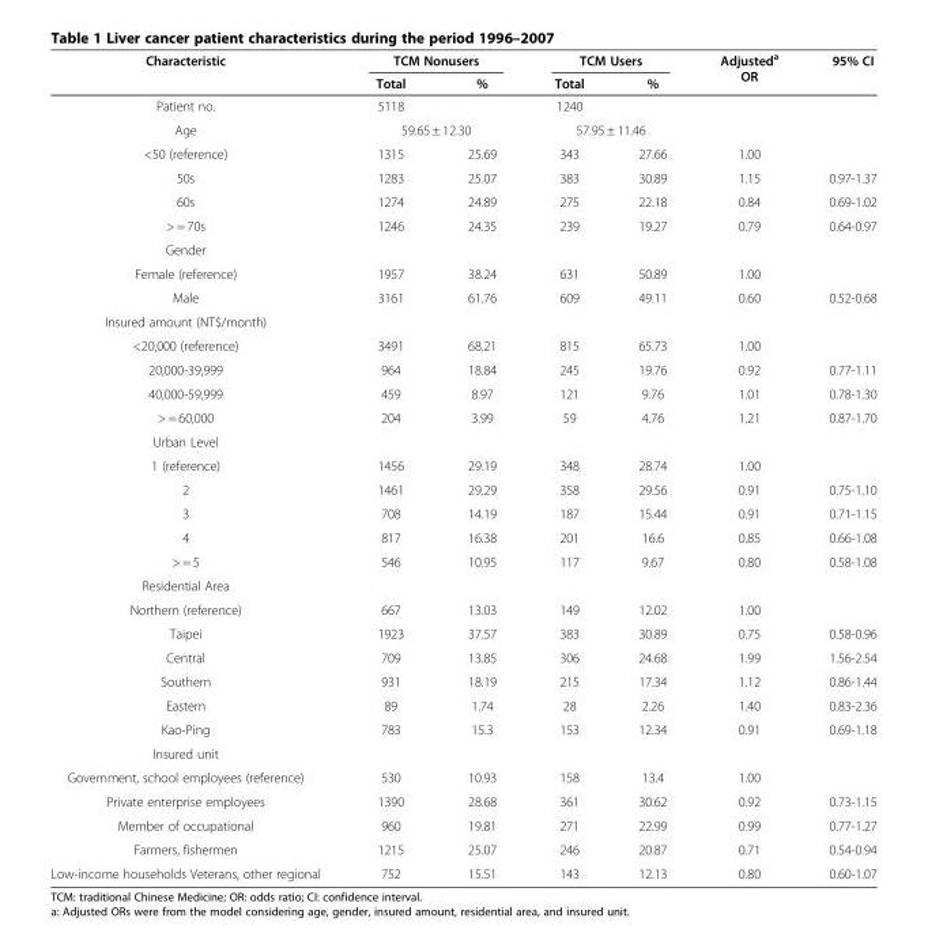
<table><thead><tr><td rowspan="2">Characteristic</td><td colspan="2">TCM Nonusers</td><td colspan="2">TCM Users</td><td rowspan="2">Adjusted<sup>a</sup> OR</td><td rowspan="2">95% CI</td></tr><tr><td>Total</td><td>%</td><td>Total</td><td>%</td></tr></thead><tbody><tr><td>Patient no.</td><td>5118</td><td></td><td>1240</td><td></td><td></td><td></td></tr><tr><td>Age</td><td colspan="2">59.65 ± 12.30</td><td colspan="2">57.95 ± 11.46</td><td></td><td></td></tr><tr><td>&lt;50 (reference)</td><td>1315</td><td>25.69</td><td>343</td><td>27.66</td><td>1.00</td><td></td></tr><tr><td>50s</td><td>1283</td><td>25.07</td><td>383</td><td>30.89</td><td>1.15</td><td>0.97-1.37</td></tr><tr><td>60s</td><td>1274</td><td>24.89</td><td>275</td><td>22.18</td><td>0.84</td><td>0.69-1.02</td></tr><tr><td>&gt; = 70s</td><td>1246</td><td>24.35</td><td>239</td><td>19.27</td><td>0.79</td><td>0.64-0.97</td></tr><tr><td colspan="7">Gender</td></tr><tr><td>Female (reference)</td><td>1957</td><td>38.24</td><td>631</td><td>50.89</td><td>1.00</td><td></td></tr><tr><td>Male</td><td>3161</td><td>61.76</td><td>609</td><td>49.11</td><td>0.60</td><td>0.52-0.68</td></tr><tr><td colspan="7">Insured amount (NT$/month)</td></tr><tr><td>&lt;20,000 (reference)</td><td>3491</td><td>68.21</td><td>815</td><td>65.73</td><td>1.00</td><td></td></tr><tr><td>20,000-39,999</td><td>964</td><td>18.84</td><td>245</td><td>19.76</td><td>0.92</td><td>0.77-1.11</td></tr><tr><td>40,000-59,999</td><td>459</td><td>8.97</td><td>121</td><td>9.76</td><td>1.01</td><td>0.78-1.30</td></tr><tr><td>&gt; = 60,000</td><td>204</td><td>3.99</td><td>59</td><td>4.76</td><td>1.21</td><td>0.87-1.70</td></tr><tr><td colspan="7">Urban Level</td></tr><tr><td>1 (reference)</td><td>1456</td><td>29.19</td><td>348</td><td>28.74</td><td>1.00</td><td></td></tr><tr><td>2</td><td>1461</td><td>29.29</td><td>358</td><td>29.56</td><td>0.91</td><td>0.75-1.10</td></tr><tr><td>3</td><td>708</td><td>14.19</td><td>187</td><td>15.44</td><td>0.91</td><td>0.71-1.15</td></tr><tr><td>4</td><td>817</td><td>16.38</td><td>201</td><td>16.6</td><td>0.85</td><td>0.66-1.08</td></tr><tr><td>&gt; = 5</td><td>546</td><td>10.95</td><td>117</td><td>9.67</td><td>0.80</td><td>0.58-1.08</td></tr><tr><td colspan="7">Residential Area</td></tr><tr><td>Northern (reference)</td><td>667</td><td>13.03</td><td>149</td><td>12.02</td><td>1.00</td><td></td></tr><tr><td>Taipei</td><td>1923</td><td>37.57</td><td>383</td><td>30.89</td><td>0.75</td><td>0.58-0.96</td></tr><tr><td>Central</td><td>709</td><td>13.85</td><td>306</td><td>24.68</td><td>1.99</td><td>1.56-2.54</td></tr><tr><td>Southern</td><td>931</td><td>18.19</td><td>215</td><td>17.34</td><td>1.12</td><td>0.86-1.44</td></tr><tr><td>Eastern</td><td>89</td><td>1.74</td><td>28</td><td>2.26</td><td>1.40</td><td>0.83-2.36</td></tr><tr><td>Kao-Ping</td><td>783</td><td>15.3</td><td>153</td><td>12.34</td><td>0.91</td><td>0.69-1.18</td></tr><tr><td colspan="7">Insured unit</td></tr><tr><td>Government, school employees (reference)</td><td>530</td><td>10.93</td><td>158</td><td>13.4</td><td>1.00</td><td></td></tr><tr><td>Private enterprise employees</td><td>1390</td><td>28.68</td><td>361</td><td>30.62</td><td>0.92</td><td>0.73-1.15</td></tr><tr><td>Member of occupational</td><td>960</td><td>19.81</td><td>271</td><td>22.99</td><td>0.99</td><td>0.77-1.27</td></tr><tr><td>Farmers, fishermen</td><td>1215</td><td>25.07</td><td>246</td><td>20.87</td><td>0.71</td><td>0.54-0.94</td></tr><tr><td>Low-income households Veterans, other regional</td><td>752</td><td>15.51</td><td>143</td><td>12.13</td><td>0.80</td><td>0.60-1.07</td></tr></tbody></table>